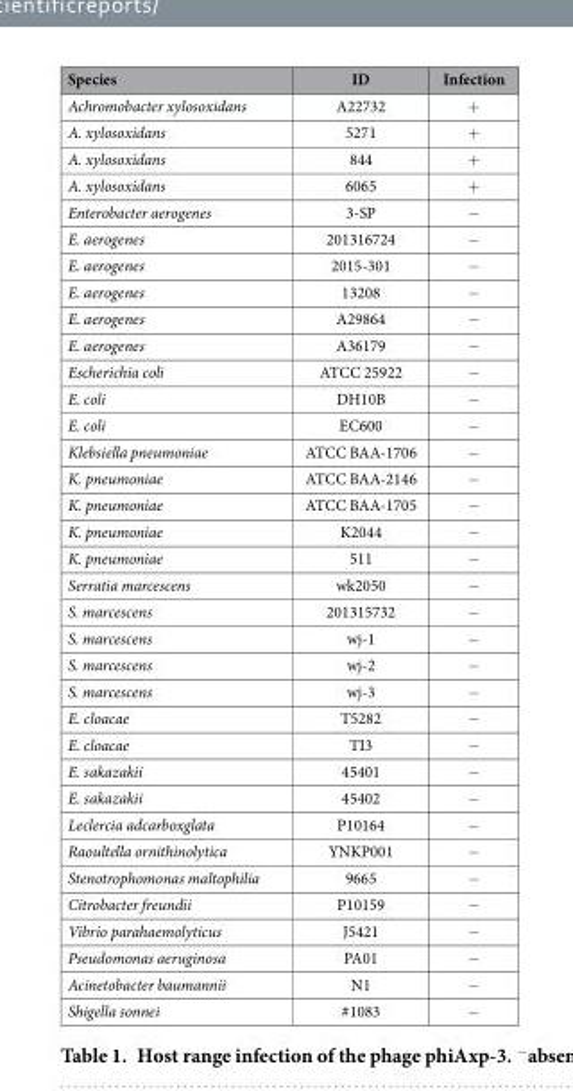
<table><thead><tr><td>Species</td><td>ID</td><td>Infection</td></tr></thead><tbody><tr><td>Achromobacter xylosoxidans</td><td>A22732</td><td>+</td></tr><tr><td>A. xylosoxidans</td><td>5271</td><td>+</td></tr><tr><td>A. xylosoxidans</td><td>844</td><td>+</td></tr><tr><td>A. xylosoxidans</td><td>6065</td><td>+</td></tr><tr><td>Enterobacter aerogenes</td><td>3-SP</td><td>−</td></tr><tr><td>E. aerogenes</td><td>201316724</td><td>−</td></tr><tr><td>E. aerogenes</td><td>2015-301</td><td>−</td></tr><tr><td>E. aerogenes</td><td>13208</td><td>−</td></tr><tr><td>E. aerogenes</td><td>A29864</td><td>−</td></tr><tr><td>E. aerogenes</td><td>A36179</td><td>−</td></tr><tr><td>Escherichia coli</td><td>ATCC 25922</td><td>−</td></tr><tr><td>E. coli</td><td>DH10B</td><td>−</td></tr><tr><td>E. coli</td><td>EC600</td><td>−</td></tr><tr><td>Klebsiella pneumoniae</td><td>ATCC BAA-1706</td><td>−</td></tr><tr><td>K. pneumoniae</td><td>ATCC BAA-2146</td><td>−</td></tr><tr><td>K. pneumoniae</td><td>ATCC BAA-1705</td><td>−</td></tr><tr><td>K. pneumoniae</td><td>K2044</td><td>−</td></tr><tr><td>K. pneumoniae</td><td>511</td><td>−</td></tr><tr><td>Serratia marcescens</td><td>wk2050</td><td>−</td></tr><tr><td>S. marcescens</td><td>201315732</td><td>−</td></tr><tr><td>S. marcescens</td><td>wj-1</td><td>−</td></tr><tr><td>S. marcescens</td><td>wj-2</td><td>−</td></tr><tr><td>S. marcescens</td><td>wj-3</td><td>−</td></tr><tr><td>E. cloacae</td><td>T5282</td><td>−</td></tr><tr><td>E. cloacae</td><td>TI3</td><td>−</td></tr><tr><td>E. sakazakii</td><td>45401</td><td>−</td></tr><tr><td>E. sakazakii</td><td>45402</td><td>−</td></tr><tr><td>Leclercia adcarboxglata</td><td>P10164</td><td>−</td></tr><tr><td>Raoultella ornithinolytica</td><td>YNKP001</td><td>−</td></tr><tr><td>Stenotrophomonas maltophilia</td><td>9665</td><td>−</td></tr><tr><td>Citrobacter freundii</td><td>P10159</td><td>−</td></tr><tr><td>Vibrio parahaemolyticus</td><td>J5421</td><td>−</td></tr><tr><td>Pseudomonas aeruginosa</td><td>PA01</td><td>−</td></tr><tr><td>Acinetobacter baumannii</td><td>N1</td><td>−</td></tr><tr><td>Shigella sonnei</td><td>#1083</td><td>−</td></tr></tbody></table>